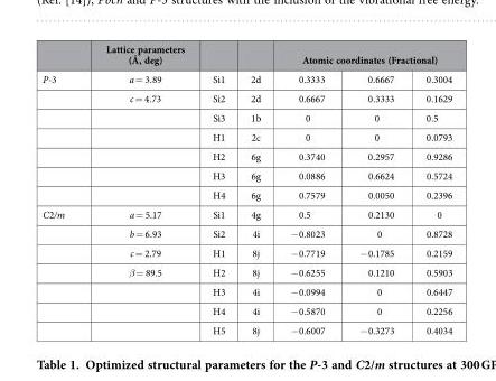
<table><thead><tr><td rowspan="2">P-3</td><td rowspan="2">Lattice parameters (Å, deg) a = 3.89</td><td rowspan="2">Si1</td><td rowspan="2">2d</td><td colspan="3">Atomic coordinates (Fractional)</td></tr><tr><td>0.3333</td><td>0.6667</td><td>0.3004</td></tr></thead><tbody><tr><td></td><td>c = 4.73</td><td>Si2</td><td>2d</td><td>0.6667</td><td>0.3333</td><td>0.1629</td></tr><tr><td></td><td></td><td>Si3</td><td>1b</td><td>0</td><td>0</td><td>0.5</td></tr><tr><td></td><td></td><td>H1</td><td>2c</td><td>0</td><td>0</td><td>0.0793</td></tr><tr><td></td><td></td><td>H2</td><td>6g</td><td>0.3740</td><td>0.2957</td><td>0.9286</td></tr><tr><td></td><td></td><td>H3</td><td>6g</td><td>0.0886</td><td>0.6624</td><td>0.5724</td></tr><tr><td></td><td></td><td>H4</td><td>6g</td><td>0.7579</td><td>0.0050</td><td>0.2396</td></tr><tr><td rowspan="7">C2/m</td><td>a = 5.17</td><td>Si1</td><td>4g</td><td>0.5</td><td>0.2130</td><td>0</td></tr><tr><td>b = 6.93</td><td>Si2</td><td>4i</td><td>− 0.8023</td><td>0</td><td>0.8728</td></tr><tr><td>c = 2.79</td><td>H1</td><td>8j</td><td>− 0.7719</td><td>− 0.1785</td><td>0.2159</td></tr><tr><td>β = 89.5</td><td>H2</td><td>8j</td><td>− 0.6255</td><td>0.1210</td><td>0.5903</td></tr><tr><td></td><td>H3</td><td>4i</td><td>− 0.0994</td><td>0</td><td>0.6447</td></tr><tr><td></td><td>H4</td><td>4i</td><td>− 0.5870</td><td>0</td><td>0.2256</td></tr><tr><td></td><td>H5</td><td>8j</td><td>− 0.6007</td><td>− 0.3273</td><td>0.4034</td></tr></tbody></table>